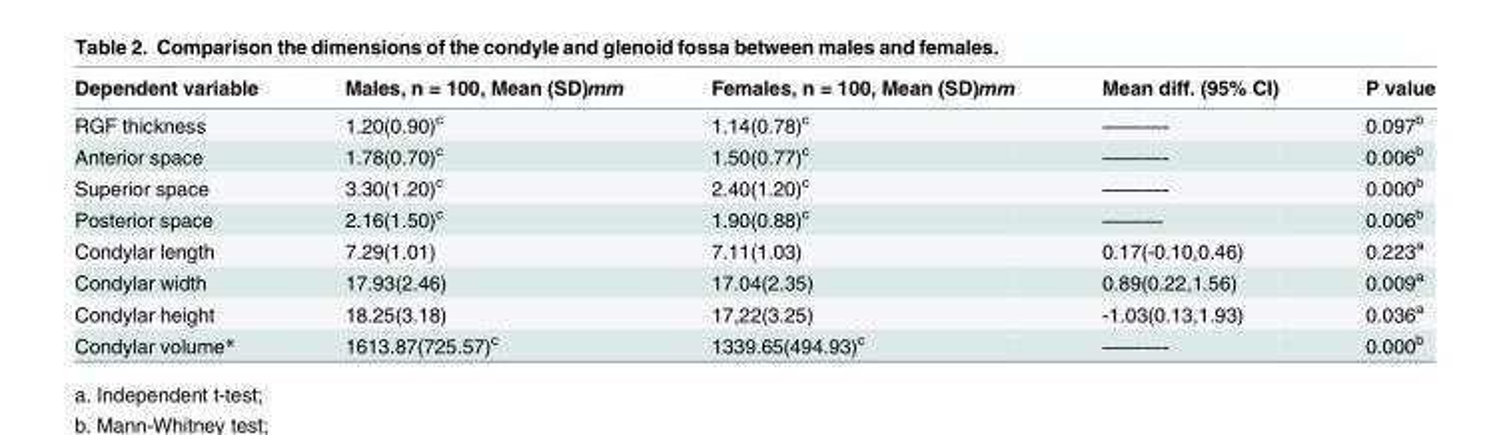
<table><thead><tr><td>Dependent variable</td><td>Males, n = 100, Mean (SD)mm</td><td>Females, n = 100, Mean (SD)mm</td><td>Mean diff. (95% CI)</td><td>P value</td></tr></thead><tbody><tr><td>RGF thickness</td><td>1.20(0.90)<sup>c</sup></td><td>1.14(0.78)<sup>c</sup></td><td>———-</td><td>0.097<sup>b</sup></td></tr><tr><td>Anterior space</td><td>1.78(0.70)<sup>c</sup></td><td>1.50(0.77)<sup>c</sup></td><td>———-</td><td>0.006<sup>b</sup></td></tr><tr><td>Superior space</td><td>3.30(1.20)<sup>c</sup></td><td>2.40(1.20)<sup>c</sup></td><td>———-</td><td>0.000<sup>b</sup></td></tr><tr><td>Posterior space</td><td>2.16(1.50)<sup>c</sup></td><td>1.90(0.88)<sup>c</sup></td><td>———</td><td>0.006<sup>b</sup></td></tr><tr><td>Condylar length</td><td>7.29(1.01)</td><td>7.11(1.03)</td><td>0.17(-0.10,0.46)</td><td>0.223<sup>a</sup></td></tr><tr><td>Condylar width</td><td>17.93(2.46)</td><td>17.04(2.35)</td><td>0.89(0.22,1.56)</td><td>0.009<sup>a</sup></td></tr><tr><td>Condylar height</td><td>18.25(3.18)</td><td>17,22(3.25)</td><td>-1.03(0.13,1.93)</td><td>0.036<sup>a</sup></td></tr><tr><td>Condylar volume*</td><td>1613.87(725.57)<sup>c</sup></td><td>1339.65(494.93)<sup>c</sup></td><td>———-</td><td>0.000<sup>b</sup></td></tr></tbody></table>